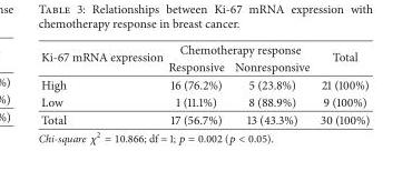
<table><thead><tr><td rowspan="2">Ki-67 mRNA expression</td><td colspan="2">Chemotherapy response</td><td rowspan="2">Total</td></tr><tr><td>Responsive</td><td>Nonresponsive</td></tr></thead><tbody><tr><td>High</td><td>16 (76.2%)</td><td>5 (23.8%)</td><td>21 (100%)</td></tr><tr><td>Low</td><td>1 (11.1%)</td><td>8 (88.9%)</td><td>9 (100%)</td></tr><tr><td>Total</td><td>17 (56.7%)</td><td>13 (43.3%)</td><td>30 (100%)</td></tr></tbody></table>